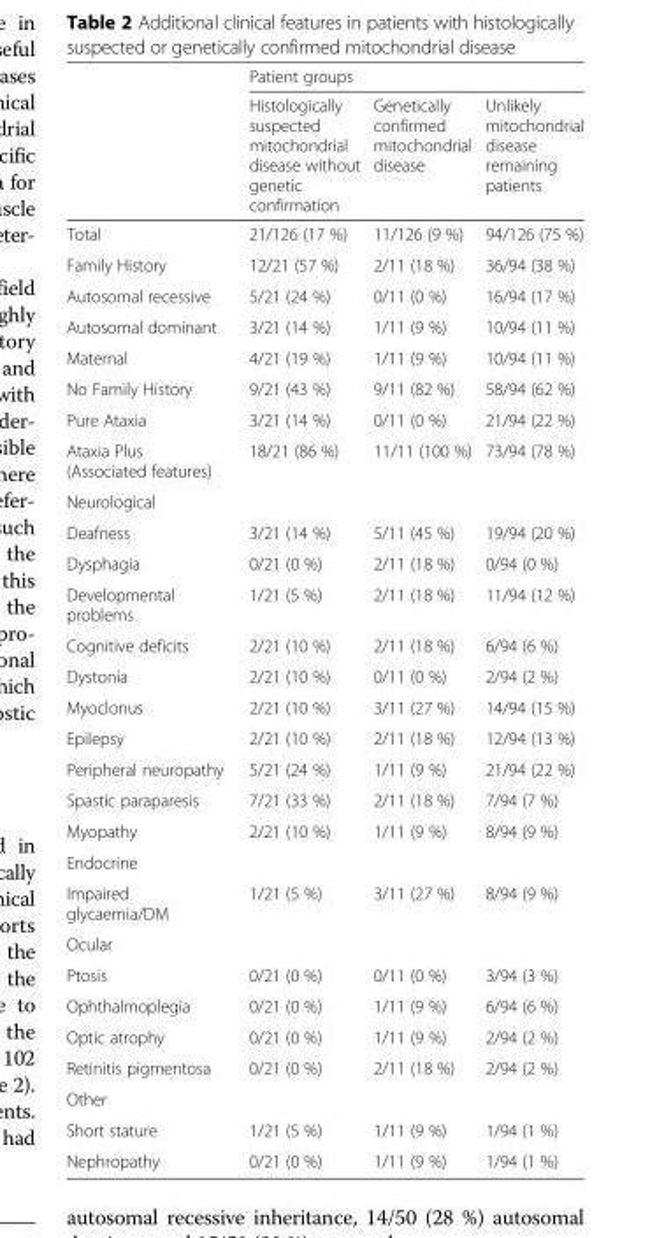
<table><thead><tr><td rowspan="2"></td><td colspan="3">Patient groups</td></tr><tr><td>Histologically suspected mitochondrial disease without genetic confirmation</td><td>Genetically confirmed mitochondrial disease</td><td>Unlikely mitochondrial disease remaining patients</td></tr></thead><tbody><tr><td>Total</td><td>21/126 (17 %)</td><td>11/126 (9 %)</td><td>94/126 (75 %)</td></tr><tr><td>Family History</td><td>12/21 (57 %)</td><td>2/11 (18 %)</td><td>36/94 (38 %)</td></tr><tr><td>Autosomal recessive</td><td>5/21 (24 %)</td><td>0/11 (0 %)</td><td>16/94 (17 %)</td></tr><tr><td>Autosomal dominant</td><td>3/21 (14 %)</td><td>1/11 (9 %)</td><td>10/94 (11 %)</td></tr><tr><td>Maternal</td><td>4/21 (19 %)</td><td>1/11 (9 %)</td><td>10/94 (11 %)</td></tr><tr><td>No Family History</td><td>9/21 (43 %)</td><td>9/11 (82 %)</td><td>58/94 (62 %)</td></tr><tr><td>Pure Ataxia</td><td>3/21 (14 %)</td><td>0/11 (0 %)</td><td>21/94 (22 %)</td></tr><tr><td>Ataxia Plus (Associated features)</td><td>18/21 (86 %)</td><td>11/11 (100 %)</td><td>73/94 (78 %)</td></tr><tr><td colspan="4">Neurological</td></tr><tr><td>Deafness</td><td>3/21 (14 %)</td><td>5/11 (45 %)</td><td>19/94 (20 %)</td></tr><tr><td>Dysphagia</td><td>0/21 (0 %)</td><td>2/11 (18 %)</td><td>0/94 (0 %)</td></tr><tr><td>Developmental problems</td><td>1/21 (5 %)</td><td>2/11 (18 %)</td><td>11/94 (12 %)</td></tr><tr><td>Cognitive deficits</td><td>2/21 (10 %)</td><td>2/11 (18 %)</td><td>6/94 (6 %)</td></tr><tr><td>Dystonia</td><td>2/21 (10 %)</td><td>0/11 (0 %)</td><td>2/94 (2 %)</td></tr><tr><td>Myoclonus</td><td>2/21 (10 %)</td><td>3/11 (27 %)</td><td>14/94 (15 %)</td></tr><tr><td>Epilepsy</td><td>2/21 (10 %)</td><td>2/11 (18 %)</td><td>12/94 (13 %)</td></tr><tr><td>Peripheral neuropathy</td><td>5/21 (24 %)</td><td>1/11 (9 %)</td><td>21/94 (22 %)</td></tr><tr><td>Spastic paraparesis</td><td>7/21 (33 %)</td><td>2/11 (18 %)</td><td>7/94 (7 %)</td></tr><tr><td>Myopathy</td><td>2/21 (10 %)</td><td>1/11 (9 %)</td><td>8/94 (9 %)</td></tr><tr><td colspan="4">Endocrine</td></tr><tr><td>Impaired glycaemia/DM</td><td>1/21 (5 %)</td><td>3/11 (27 %)</td><td>8/94 (9 %)</td></tr><tr><td colspan="4">Ocular</td></tr><tr><td>Ptosis</td><td>0/21 (0 %)</td><td>0/11 (0 %)</td><td>3/94 (3 %)</td></tr><tr><td>Ophthalmoplegia</td><td>0/21 (0 %)</td><td>1/11 (9 %)</td><td>6/94 (6 %)</td></tr><tr><td>Optic atrophy</td><td>0/21 (0 %)</td><td>1/11 (9 %)</td><td>2/94 (2 %)</td></tr><tr><td>Retinitis pigmentosa</td><td>0/21 (0 %)</td><td>2/11 (18 %)</td><td>2/94 (2 %)</td></tr><tr><td colspan="4">Other</td></tr><tr><td>Short stature</td><td>1/21 (5 %)</td><td>1/11 (9 %)</td><td>1/94 (1 %)</td></tr><tr><td>Nephropathy</td><td>0/21 (0 %)</td><td>1/11 (9 %)</td><td>1/94 (1 %)</td></tr></tbody></table>